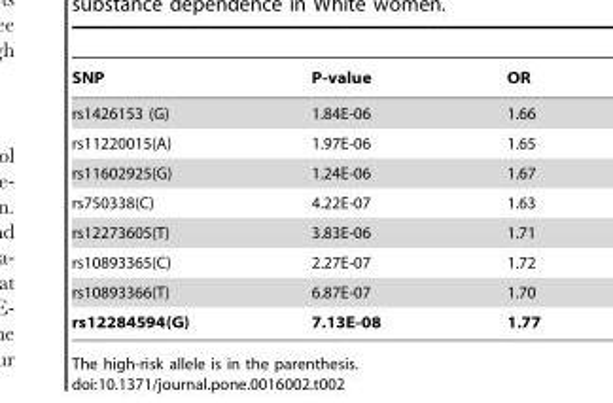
<table><thead><tr><td>SNP</td><td>P-value</td><td>OR</td></tr></thead><tbody><tr><td>rs1426153 (G)</td><td>1.84E-06</td><td>1.66</td></tr><tr><td>rs11220015(A)</td><td>1.97E-06</td><td>1.65</td></tr><tr><td>rs11602925(G)</td><td>1.24E-06</td><td>1.67</td></tr><tr><td>rs750338(C)</td><td>4.22E-07</td><td>1.63</td></tr><tr><td>rs12273605(T)</td><td>3.83E-06</td><td>1.71</td></tr><tr><td>rs10893365(C)</td><td>2.27E-07</td><td>1.72</td></tr><tr><td>rs10893366(T)</td><td>6.87E-07</td><td>1.70</td></tr><tr><td>rs12284594(G)</td><td>7.13E-08</td><td>1.77</td></tr></tbody></table>